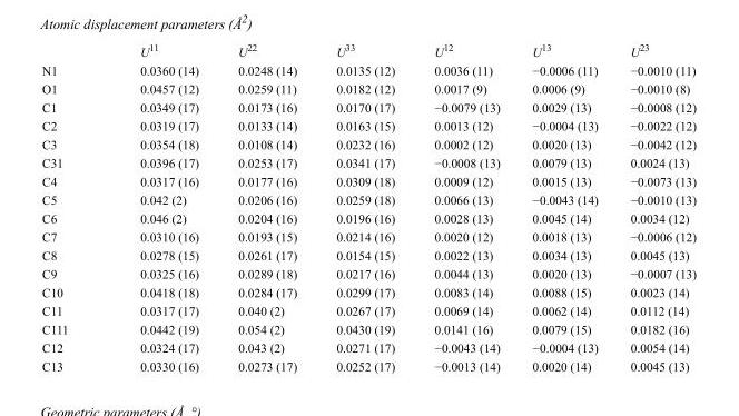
<table><thead><tr><td></td><td>U<sup>11</sup></td><td>U<sup>22</sup></td><td>U<sup>33</sup></td><td>U<sup>12</sup></td><td>U<sup>13</sup></td><td>U<sup>23</sup></td></tr></thead><tbody><tr><td>N1</td><td>0.0360 (14)</td><td>0.0248 (14)</td><td>0.0135 (12)</td><td>0.0036 (11)</td><td>−0.0006 (11)</td><td>−0.0010 (11)</td></tr><tr><td>O1</td><td>0.0457 (12)</td><td>0.0259 (11)</td><td>0.0182 (12)</td><td>0.0017 (9)</td><td>0.0006 (9)</td><td>−0.0010 (8)</td></tr><tr><td>C1</td><td>0.0349 (17)</td><td>0.0173 (16)</td><td>0.0170 (17)</td><td>−0.0079 (13)</td><td>0.0029 (13)</td><td>−0.0008 (12)</td></tr><tr><td>C2</td><td>0.0319 (17)</td><td>0.0133 (14)</td><td>0.0163 (15)</td><td>0.0013 (12)</td><td>−0.0004 (13)</td><td>−0.0022 (12)</td></tr><tr><td>C3</td><td>0.0354 (18)</td><td>0.0108 (14)</td><td>0.0232 (16)</td><td>0.0002 (12)</td><td>0.0020 (13)</td><td>−0.0042 (12)</td></tr><tr><td>C31</td><td>0.0396 (17)</td><td>0.0253 (17)</td><td>0.0341 (17)</td><td>−0.0008 (13)</td><td>0.0079 (13)</td><td>0.0024 (13)</td></tr><tr><td>C4</td><td>0.0317 (16)</td><td>0.0177 (16)</td><td>0.0309 (18)</td><td>0.0009 (12)</td><td>0.0015 (13)</td><td>−0.0073 (13)</td></tr><tr><td>C5</td><td>0.042 (2)</td><td>0.0206 (16)</td><td>0.0259 (18)</td><td>0.0066 (13)</td><td>−0.0043 (14)</td><td>−0.0010 (13)</td></tr><tr><td>C6</td><td>0.046 (2)</td><td>0.0204 (16)</td><td>0.0196 (16)</td><td>0.0028 (13)</td><td>0.0045 (14)</td><td>0.0034 (12)</td></tr><tr><td>C7</td><td>0.0310 (16)</td><td>0.0193 (15)</td><td>0.0214 (16)</td><td>0.0020 (12)</td><td>0.0018 (13)</td><td>−0.0006 (12)</td></tr><tr><td>C8</td><td>0.0278 (15)</td><td>0.0261 (17)</td><td>0.0154 (15)</td><td>0.0022 (13)</td><td>0.0034 (13)</td><td>0.0045 (13)</td></tr><tr><td>C9</td><td>0.0325 (16)</td><td>0.0289 (18)</td><td>0.0217 (16)</td><td>0.0044 (13)</td><td>0.0020 (13)</td><td>−0.0007 (13)</td></tr><tr><td>C10</td><td>0.0418 (18)</td><td>0.0284 (17)</td><td>0.0299 (17)</td><td>0.0083 (14)</td><td>0.0088 (15)</td><td>0.0023 (14)</td></tr><tr><td>C11</td><td>0.0317 (17)</td><td>0.040 (2)</td><td>0.0267 (17)</td><td>0.0069 (14)</td><td>0.0062 (14)</td><td>0.0112 (14)</td></tr><tr><td>C111</td><td>0.0442 (19)</td><td>0.054 (2)</td><td>0.0430 (19)</td><td>0.0141 (16)</td><td>0.0079 (15)</td><td>0.0182 (16)</td></tr><tr><td>C12</td><td>0.0324 (17)</td><td>0.043 (2)</td><td>0.0271 (17)</td><td>−0.0043 (14)</td><td>−0.0004 (13)</td><td>0.0054 (14)</td></tr><tr><td>C13</td><td>0.0330 (16)</td><td>0.0273 (17)</td><td>0.0252 (17)</td><td>−0.0013 (14)</td><td>0.0020 (14)</td><td>0.0045 (13)</td></tr></tbody></table>